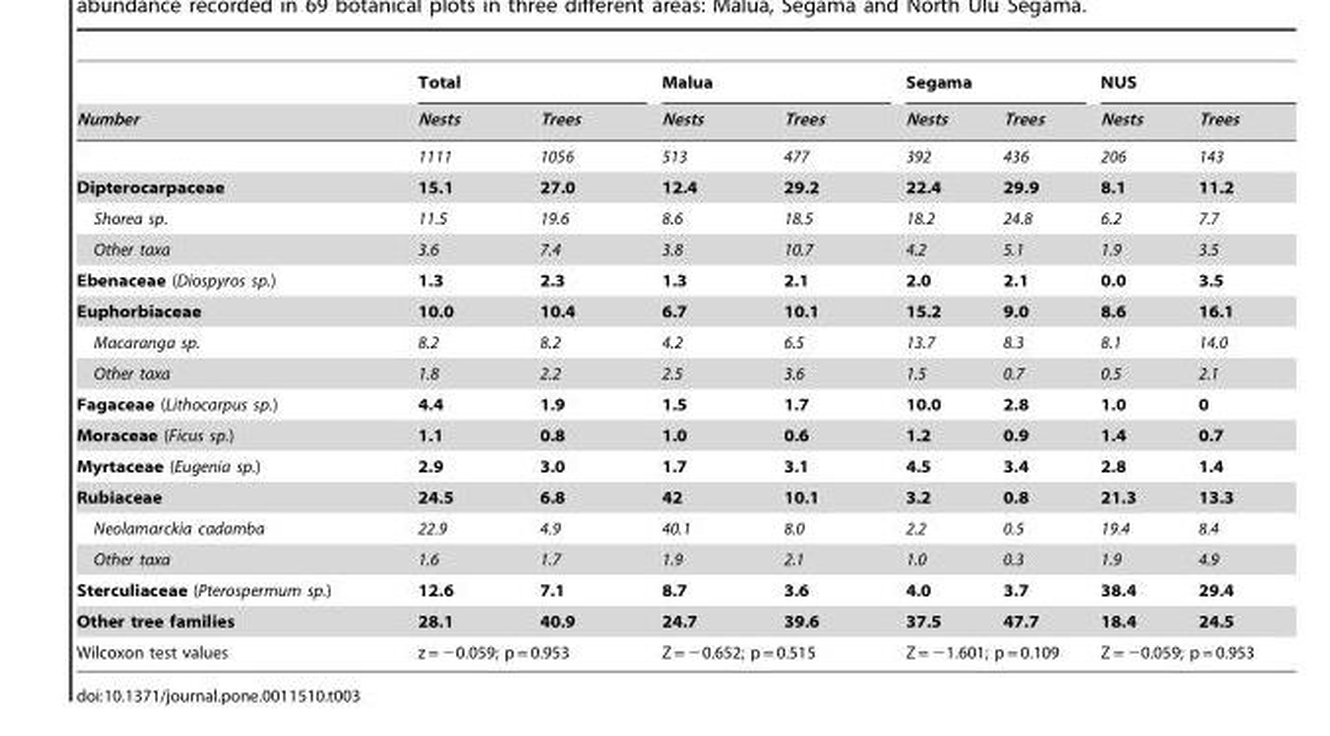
<table><thead><tr><td rowspan="2">Number</td><td colspan="2">Total</td><td colspan="2">Malua</td><td colspan="2">Segama</td><td colspan="2">NUS</td></tr><tr><td>Nests</td><td>Trees</td><td>Nests</td><td>Trees</td><td>Nests</td><td>Trees</td><td>Nests</td><td>Trees</td></tr></thead><tbody><tr><td></td><td>1111</td><td>1056</td><td>513</td><td>477</td><td>392</td><td>436</td><td>206</td><td>143</td></tr><tr><td>Dipterocarpaceae</td><td>15.1</td><td>27.0</td><td>12.4</td><td>29.2</td><td>22.4</td><td>29.9</td><td>8.1</td><td>11.2</td></tr><tr><td>Shorea sp.</td><td>11.5</td><td>19.6</td><td>8.6</td><td>18.5</td><td>18.2</td><td>24.8</td><td>6.2</td><td>7.7</td></tr><tr><td>Other taxa</td><td>3.6</td><td>7.4</td><td>3.8</td><td>10.7</td><td>4.2</td><td>5.1</td><td>1.9</td><td>3.5</td></tr><tr><td>Ebenaceae (Diospyros sp.)</td><td>1.3</td><td>2.3</td><td>1.3</td><td>2.1</td><td>2.0</td><td>2.1</td><td>0.0</td><td>3.5</td></tr><tr><td>Euphorbiaceae</td><td>10.0</td><td>10.4</td><td>6.7</td><td>10.1</td><td>15.2</td><td>9.0</td><td>8.6</td><td>16.1</td></tr><tr><td>Macaranga sp.</td><td>8.2</td><td>8.2</td><td>4.2</td><td>6.5</td><td>13.7</td><td>8.3</td><td>8.1</td><td>14.0</td></tr><tr><td>Other taxa</td><td>1.8</td><td>2.2</td><td>2.5</td><td>3.6</td><td>1.5</td><td>0.7</td><td>0.5</td><td>2.1</td></tr><tr><td>Fagaceae (Lithocarpus sp.)</td><td>4.4</td><td>1.9</td><td>1.5</td><td>1.7</td><td>10.0</td><td>2.8</td><td>1.0</td><td>0</td></tr><tr><td>Moraceae (Ficus sp.)</td><td>1.1</td><td>0.8</td><td>1.0</td><td>0.6</td><td>1.2</td><td>0.9</td><td>1.4</td><td>0.7</td></tr><tr><td>Myrtaceae (Eugenia sp.)</td><td>2.9</td><td>3.0</td><td>1.7</td><td>3.1</td><td>4.5</td><td>3.4</td><td>2.8</td><td>1.4</td></tr><tr><td>Rubiaceae</td><td>24.5</td><td>6.8</td><td>42</td><td>10.1</td><td>3.2</td><td>0.8</td><td>21.3</td><td>13.3</td></tr><tr><td>Neolamarckia cadamba</td><td>22.9</td><td>4.9</td><td>40.1</td><td>8.0</td><td>2.2</td><td>0.5</td><td>19.4</td><td>8.4</td></tr><tr><td>Other taxa</td><td>1.6</td><td>1.7</td><td>1.9</td><td>2.1</td><td>1.0</td><td>0.3</td><td>1.9</td><td>4.9</td></tr><tr><td>Sterculiaceae (Pterospermum sp.)</td><td>12.6</td><td>7.1</td><td>8.7</td><td>3.6</td><td>4.0</td><td>3.7</td><td>38.4</td><td>29.4</td></tr><tr><td>Other tree families</td><td>28.1</td><td>40.9</td><td>24.7</td><td>39.6</td><td>37.5</td><td>47.7</td><td>18.4</td><td>24.5</td></tr><tr><td>Wilcoxon test values</td><td colspan="2">z = −0.059; p = 0.953</td><td colspan="2">Z = −0.652; p = 0.515</td><td colspan="2">Z = −1.601; p = 0.109</td><td colspan="2">Z = −0.059; p = 0.953</td></tr></tbody></table>